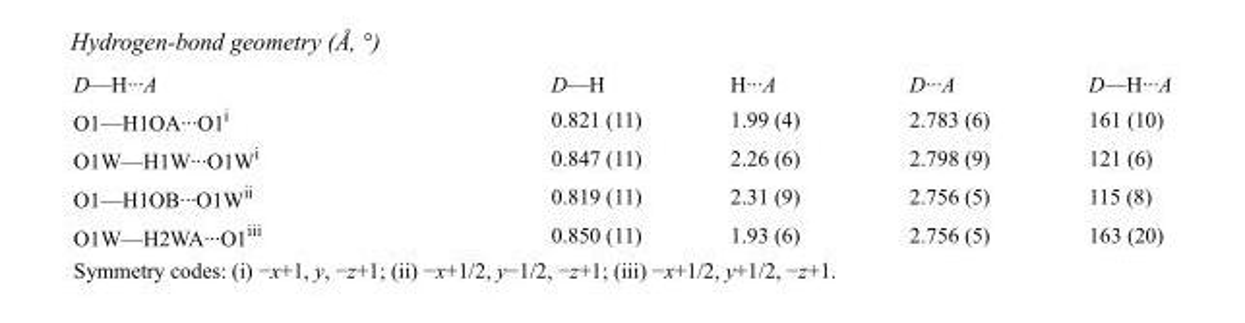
<table><tbody><tr><td>D—H···A</td><td>D—H</td><td>H···A</td><td>D···A</td><td>D—H···A</td></tr><tr><td>O1—H1OA···O1<sup>i</sup></td><td>0.821 (11)</td><td>1.99 (4)</td><td>2.783 (6)</td><td>161 (10)</td></tr><tr><td>O1W—H1W···O1W<sup>i</sup></td><td>0.847 (11)</td><td>2.26 (6)</td><td>2.798 (9)</td><td>121 (6)</td></tr><tr><td>O1—H1OB···O1W<sup>ii</sup></td><td>0.819 (11)</td><td>2.31 (9)</td><td>2.756 (5)</td><td>115 (8)</td></tr><tr><td>O1W—H2WA···O1<sup>iii</sup></td><td>0.850 (11)</td><td>1.93 (6)</td><td>2.756 (5)</td><td>163 (20)</td></tr></tbody></table>